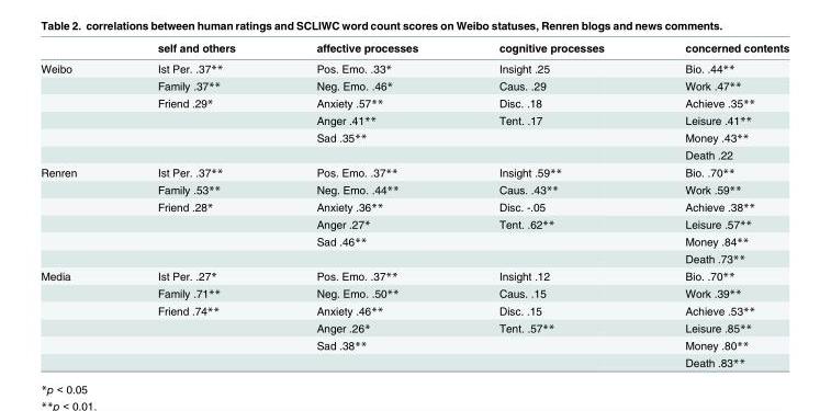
<table><thead><tr><td></td><td>self and others</td><td>affective processes</td><td>cognitive processes</td><td>concerned contents</td></tr></thead><tbody><tr><td rowspan="6">Weibo</td><td>Ist Per. .37**</td><td>Pos. Emo. .33*</td><td>Insight .25</td><td>Bio. .44**</td></tr><tr><td>Family .37**</td><td>Neg. Emo. .46*</td><td>Caus. .29</td><td>Work .47**</td></tr><tr><td>Friend .29*</td><td>Anxiety .57**</td><td>Disc. .18</td><td>Achieve .35**</td></tr><tr><td></td><td>Anger .41**</td><td>Tent. .17</td><td>Leisure .41**</td></tr><tr><td></td><td>Sad .35**</td><td></td><td>Money .43**</td></tr><tr><td></td><td></td><td></td><td>Death .22</td></tr><tr><td rowspan="6">Renren</td><td>Ist Per. .37**</td><td>Pos. Emo. .37**</td><td>Insight .59**</td><td>Bio. .70**</td></tr><tr><td>Family .53**</td><td>Neg. Emo. .44**</td><td>Caus. .43**</td><td>Work .59**</td></tr><tr><td>Friend .28*</td><td>Anxiety .36**</td><td>Disc. -.05</td><td>Achieve .38**</td></tr><tr><td></td><td>Anger .27*</td><td>Tent. .62**</td><td>Leisure .57**</td></tr><tr><td></td><td>Sad .46**</td><td></td><td>Money .84**</td></tr><tr><td></td><td></td><td></td><td>Death .73**</td></tr><tr><td rowspan="6">Media</td><td>Ist Per. .27*</td><td>Pos. Emo. .37**</td><td>Insight .12</td><td>Bio. .70**</td></tr><tr><td>Family .71**</td><td>Neg. Emo. .50**</td><td>Caus. .15</td><td>Work .39**</td></tr><tr><td>Friend .74**</td><td>Anxiety .46**</td><td>Disc. .15</td><td>Achieve .53**</td></tr><tr><td></td><td>Anger .26*</td><td>Tent. .57**</td><td>Leisure .85**</td></tr><tr><td></td><td>Sad .38**</td><td></td><td>Money .80**</td></tr><tr><td></td><td></td><td></td><td>Death .83**</td></tr></tbody></table>